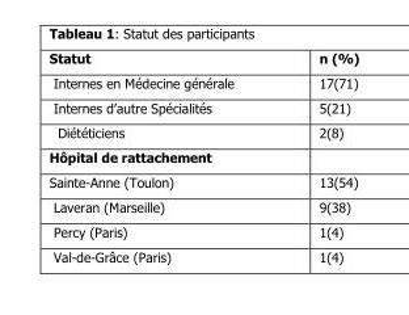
<table><thead><tr><td>Statut</td><td>n (%)</td></tr></thead><tbody><tr><td>Internes en Médecine générale</td><td>17(71)</td></tr><tr><td>Internes d’autre Spécialités</td><td>5(21)</td></tr><tr><td>Diététiciens</td><td>2(8)</td></tr><tr><td colspan="2">Hôpital de rattachement</td></tr><tr><td>Sainte-Anne (Toulon)</td><td>13(54)</td></tr><tr><td>Laveran (Marseille)</td><td>9(38)</td></tr><tr><td>Percy (Paris)</td><td>1(4)</td></tr><tr><td>Val-de-Grâce (Paris)</td><td>1(4)</td></tr></tbody></table>